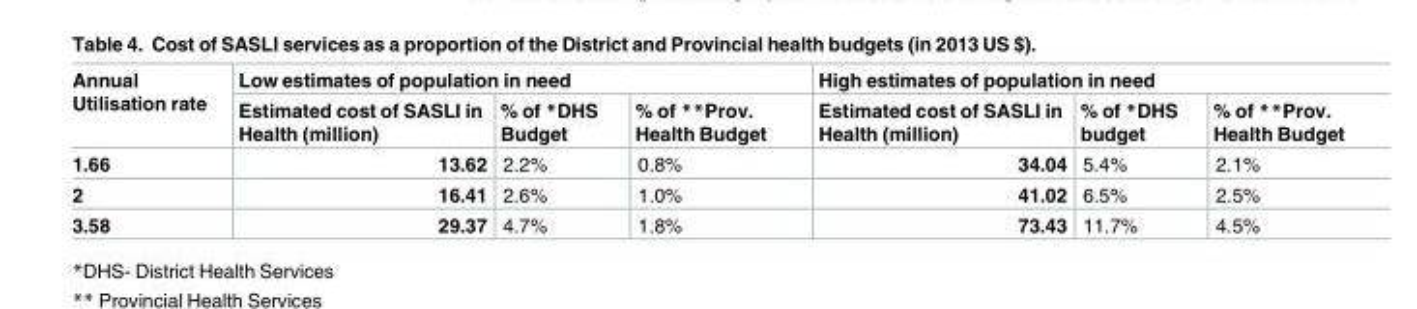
<table><thead><tr><td rowspan="2">Annual Utilisation rate</td><td colspan="3">Low estimates of population in need</td><td colspan="3">High estimates of population in need</td></tr><tr><td>Estimated cost of SASLI in Health (million)</td><td>% of *DHS Budget</td><td>% of **Prov. Health Budget</td><td>Estimated cost of SASLI in Health (million)</td><td>% of *DHS budget</td><td>% of **Prov. Health Budget</td></tr></thead><tbody><tr><td>1.66</td><td>13.62</td><td>2.2%</td><td>0.8%</td><td>34.04</td><td>5.4%</td><td>2.1%</td></tr><tr><td>2</td><td>16.41</td><td>2.6%</td><td>1.0%</td><td>41.02</td><td>6.5%</td><td>2.5%</td></tr><tr><td>3.58</td><td>29.37</td><td>4.7%</td><td>1.8%</td><td>73.43</td><td>11.7%</td><td>4.5%</td></tr></tbody></table>